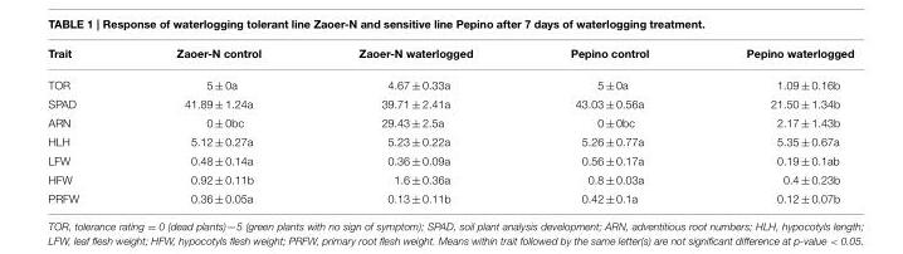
<table><thead><tr><td>Trait</td><td>Zaoer-N control</td><td>Zaoer-N waterlogged</td><td>Pepino control</td><td>Pepino waterlogged</td></tr></thead><tbody><tr><td>TOR</td><td>5 ± 0a</td><td>4.67 ± 0.33a</td><td>5 ± 0a</td><td>1.09 ± 0.16b</td></tr><tr><td>SPAD</td><td>41.89 ± 1.24a</td><td>39.71 ± 2.41a</td><td>43.03 ± 0.56a</td><td>21.50 ± 1.34b</td></tr><tr><td>ARN</td><td>0 ± 0bc</td><td>29.43 ± 2.5a</td><td>0 ± 0bc</td><td>2.17 ± 1.43b</td></tr><tr><td>HLH</td><td>5.12 ± 0.27a</td><td>5.23 ± 0.22a</td><td>5.26 ± 0.77a</td><td>5.35 ± 0.67a</td></tr><tr><td>LFW</td><td>0.48 ± 0.14a</td><td>0.36 ± 0.09a</td><td>0.56 ± 0.17a</td><td>0.19 ± 0.1ab</td></tr><tr><td>HFW</td><td>0.92 ± 0.11b</td><td>1.6 ± 0.36a</td><td>0.8 ± 0.03a</td><td>0.4 ± 0.23b</td></tr><tr><td>PRFW</td><td>0.36 ± 0.05a</td><td>0.13 ± 0.11b</td><td>0.42 ± 0.1a</td><td>0.12 ± 0.07b</td></tr></tbody></table>